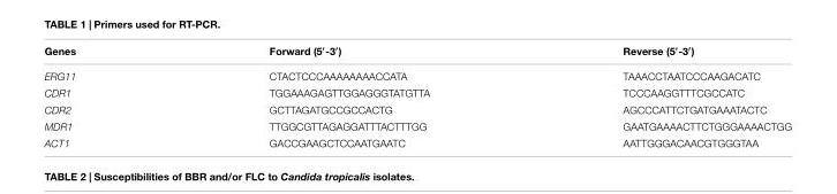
<table><thead><tr><td>Genes</td><td>Forward (5′-3′)</td><td>Reverse (5′-3′)</td></tr></thead><tbody><tr><td>ERG11</td><td>CTACTCCCAAAAAAAACCATA</td><td>TAAACCTAATCCCAAGACATC</td></tr><tr><td>CDR1</td><td>TGGAAAGAGTTGGAGGGTATGTTA</td><td>TCCCAAGGTTTCGCCATC</td></tr><tr><td>CDR2</td><td>GCTTAGATGCCGCCACTG</td><td>AGCCCATTCTGATGAAATACTC</td></tr><tr><td>MDR1</td><td>TTGGCGTTAGAGGATTTACTTTGG</td><td>GAATGAAAACTTCTGGGAAAACTGG</td></tr><tr><td>ACT1</td><td>GACCGAAGCTCCAATGAATC</td><td>AATTGGGACAACGTGGGTAA</td></tr></tbody></table>